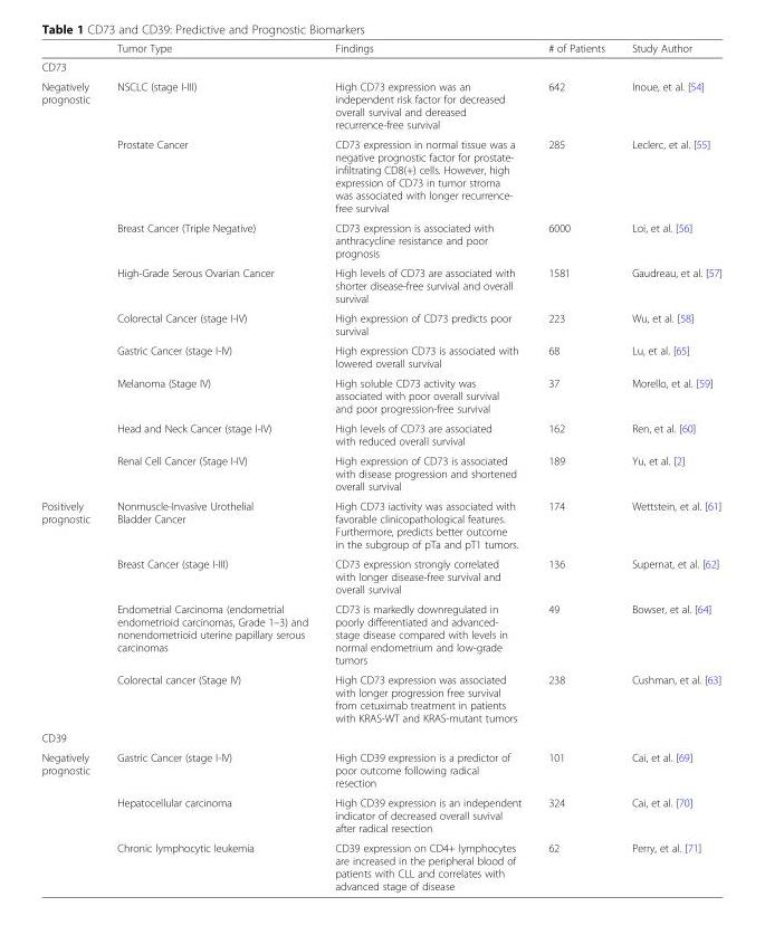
<table><thead><tr><td></td><td>Tumor Type</td><td>Findings</td><td># of Patients</td><td>Study Author</td></tr></thead><tbody><tr><td colspan="5">CD73</td></tr><tr><td rowspan="9">Negatively prognostic</td><td>NSCLC (stage I-III)</td><td>High CD73 expression was an independent risk factor for decreased overall survival and dereased recurrence-free survival</td><td>642</td><td>Inoue, et al. [54]</td></tr><tr><td>Prostate Cancer</td><td>CD73 expression in normal tissue was a negative prognostic factor for prostate- infiltrating CD8(+) cells. However, high expression of CD73 in tumor stroma was associated with longer recurrence- free survival</td><td>285</td><td>Leclerc, et al. [55]</td></tr><tr><td>Breast Cancer (Triple Negative)</td><td>CD73 expression is associated with anthracycline resistance and poor prognosis</td><td>6000</td><td>Loi, et al. [56]</td></tr><tr><td>High-Grade Serous Ovarian Cancer</td><td>High levels of CD73 are associated with shorter disease-free survival and overall survival</td><td>1581</td><td>Gaudreau, et al. [57]</td></tr><tr><td>Colorectal Cancer (stage I-IV)</td><td>High expression of CD73 predicts poor survival</td><td>223</td><td>Wu, et al. [58]</td></tr><tr><td>Gastric Cancer (stage I-IV)</td><td>High expression CD73 is associated with lowered overall survival</td><td>68</td><td>Lu, et al. [65]</td></tr><tr><td>Melanoma (Stage IV)</td><td>High soluble CD73 activity was associated with poor overall survival and poor progression-free survival</td><td>37</td><td>Morello, et al. [59]</td></tr><tr><td>Head and Neck Cancer (stage I-IV)</td><td>High levels of CD73 are associated with reduced overall survival</td><td>162</td><td>Ren, et al. [60]</td></tr><tr><td>Renal Cell Cancer (Stage I-IV)</td><td>High expression of CD73 is associated with disease progression and shortened overall survival</td><td>189</td><td>Yu, et al. [2]</td></tr><tr><td rowspan="4">Positively prognostic</td><td>Nonmuscle-Invasive Urothelial Bladder Cancer</td><td>High CD73 iactivity was associated with favorable clinicopathological features. Furthermore, predicts better outcome in the subgroup of pTa and pT1 tumors.</td><td>174</td><td>Wettstein, et al. [61]</td></tr><tr><td>Breast Cancer (stage I-III)</td><td>CD73 expression strongly correlated with longer disease-free survival and overall survival</td><td>136</td><td>Supernat, et al. [62]</td></tr><tr><td>Endometrial Carcinoma (endometrial endometrioid carcinomas, Grade 1–3) and nonendometrioid uterine papillary serous carcinomas</td><td>CD73 is markedly downregulated in poorly differentiated and advanced- stage disease compared with levels in normal endometrium and low-grade tumors</td><td>49</td><td>Bowser, et al. [64]</td></tr><tr><td>Colorectal cancer (Stage IV)</td><td>High CD73 expression was associated with longer progression free survival from cetuximab treatment in patients with KRAS-WT and KRAS-mutant tumors</td><td>238</td><td>Cushman, et al. [63]</td></tr><tr><td colspan="5">CD39</td></tr><tr><td rowspan="3">Negatively prognostic</td><td>Gastric Cancer (stage I-IV)</td><td>High CD39 expression is a predictor of poor outcome following radical resection</td><td>101</td><td>Cai, et al. [69]</td></tr><tr><td>Hepatocellular carcinoma</td><td>High CD39 expression is an independent indicator of decreased overall suvival after radical resection</td><td>324</td><td>Cai, et al. [70]</td></tr><tr><td>Chronic lymphocytic leukemia</td><td>CD39 expression on CD4+ lymphocytes are increased in the peripheral blood of patients with CLL and correlates with advanced stage of disease</td><td>62</td><td>Perry, et al. [71]</td></tr></tbody></table>